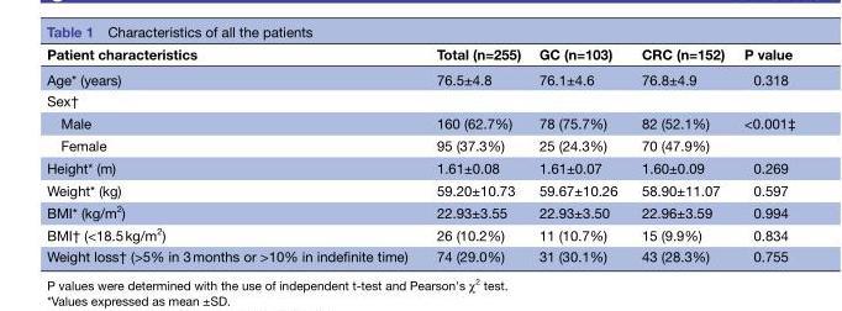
<table><thead><tr><td>Patient characteristics</td><td>Total (n=255)</td><td>GC (n=103)</td><td>CRC (n=152)</td><td>P value</td></tr></thead><tbody><tr><td>Age* (years)</td><td>76.5±4.8</td><td>76.1±4.6</td><td>76.8±4.9</td><td>0.318</td></tr><tr><td colspan="5">Sex†</td></tr><tr><td>Male</td><td>160 (62.7%)</td><td>78 (75.7%)</td><td>82 (52.1%)</td><td>&lt;0.001‡</td></tr><tr><td>Female</td><td>95 (37.3%)</td><td>25 (24.3%)</td><td>70 (47.9%)</td><td></td></tr><tr><td>Height* (m)</td><td>1.61±0.08</td><td>1.61±0.07</td><td>1.60±0.09</td><td>0.269</td></tr><tr><td>Weight* (kg)</td><td>59.20±10.73</td><td>59.67±10.26</td><td>58.90±11.07</td><td>0.597</td></tr><tr><td>BMI* (kg/m<sup>2</sup>)</td><td>22.93±3.55</td><td>22.93±3.50</td><td>22.96±3.59</td><td>0.994</td></tr><tr><td>BMI† (&lt;18.5 kg/m<sup>2</sup>)</td><td>26 (10.2%)</td><td>11 (10.7%)</td><td>15 (9.9%)</td><td>0.834</td></tr><tr><td>Weight loss† (&gt;5% in 3 months or &gt;10% in indefinite time)</td><td>74 (29.0%)</td><td>31 (30.1%)</td><td>43 (28.3%)</td><td>0.755</td></tr></tbody></table>